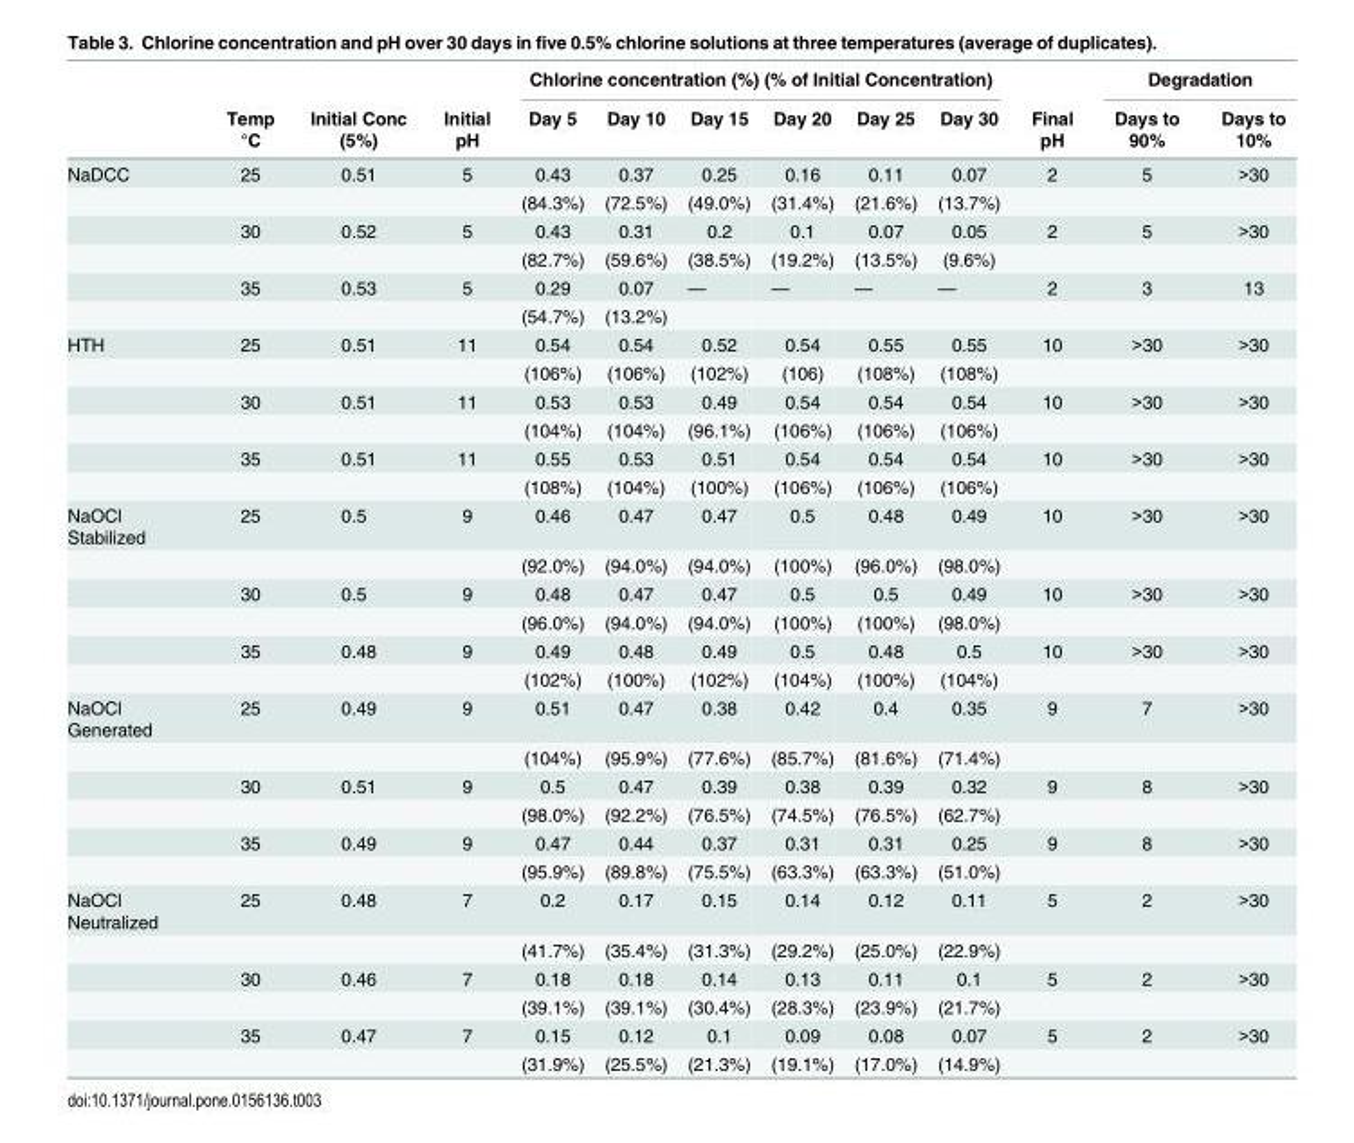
<table><thead><tr><td rowspan="2"></td><td rowspan="2">Temp °C</td><td rowspan="2">Initial Conc (5%)</td><td rowspan="2">Initial pH</td><td colspan="6">Chlorine concentration (%) (% of Initial Concentration)</td><td rowspan="2">Final pH</td><td colspan="2">Degradation</td></tr><tr><td>Day 5</td><td>Day 10</td><td>Day 15</td><td>Day 20</td><td>Day 25</td><td>Day 30</td><td>Days to 90%</td><td>Days to 10%</td></tr></thead><tbody><tr><td rowspan="6">NaDCC</td><td>25</td><td>0.51</td><td>5</td><td>0.43</td><td>0.37</td><td>0.25</td><td>0.16</td><td>0.11</td><td>0.07</td><td>2</td><td>5</td><td>&gt;30</td></tr><tr><td></td><td></td><td></td><td>(84.3%)</td><td>(72.5%)</td><td>(49.0%)</td><td>(31.4%)</td><td>(21.6%)</td><td>(13.7%)</td><td></td><td></td><td></td></tr><tr><td>30</td><td>0.52</td><td>5</td><td>0.43</td><td>0.31</td><td>0.2</td><td>0.1</td><td>0.07</td><td>0.05</td><td>2</td><td>5</td><td>&gt;30</td></tr><tr><td></td><td></td><td></td><td>(82.7%)</td><td>(59.6%)</td><td>(38.5%)</td><td>(19.2%)</td><td>(13.5%)</td><td>(9.6%)</td><td></td><td></td><td></td></tr><tr><td>35</td><td>0.53</td><td>5</td><td>0.29</td><td>0.07</td><td>—</td><td>—</td><td>—</td><td>—</td><td>2</td><td>3</td><td>13</td></tr><tr><td></td><td></td><td></td><td>(54.7%)</td><td>(13.2%)</td><td></td><td></td><td></td><td></td><td></td><td></td><td></td></tr><tr><td rowspan="6">HTH</td><td>25</td><td>0.51</td><td>11</td><td>0.54</td><td>0.54</td><td>0.52</td><td>0.54</td><td>0.55</td><td>0.55</td><td>10</td><td>&gt;30</td><td>&gt;30</td></tr><tr><td></td><td></td><td></td><td>(106%)</td><td>(106%)</td><td>(102%)</td><td>(106)</td><td>(108%)</td><td>(108%)</td><td></td><td></td><td></td></tr><tr><td>30</td><td>0.51</td><td>11</td><td>0.53</td><td>0.53</td><td>0.49</td><td>0.54</td><td>0.54</td><td>0.54</td><td>10</td><td>&gt;30</td><td>&gt;30</td></tr><tr><td></td><td></td><td></td><td>(104%)</td><td>(104%)</td><td>(96.1%)</td><td>(106%)</td><td>(106%)</td><td>(106%)</td><td></td><td></td><td></td></tr><tr><td>35</td><td>0.51</td><td>11</td><td>0.55</td><td>0.53</td><td>0.51</td><td>0.54</td><td>0.54</td><td>0.54</td><td>10</td><td>&gt;30</td><td>&gt;30</td></tr><tr><td></td><td></td><td></td><td>(108%)</td><td>(104%)</td><td>(100%)</td><td>(106%)</td><td>(106%)</td><td>(106%)</td><td></td><td></td><td></td></tr><tr><td rowspan="6">NaOCl Stabilized</td><td>25</td><td>0.5</td><td>9</td><td>0.46</td><td>0.47</td><td>0.47</td><td>0.5</td><td>0.48</td><td>0.49</td><td>10</td><td>&gt;30</td><td>&gt;30</td></tr><tr><td></td><td></td><td></td><td>(92.0%)</td><td>(94.0%)</td><td>(94.0%)</td><td>(100%)</td><td>(96.0%)</td><td>(98.0%)</td><td></td><td></td><td></td></tr><tr><td>30</td><td>0.5</td><td>9</td><td>0.48</td><td>0.47</td><td>0.47</td><td>0.5</td><td>0.5</td><td>0.49</td><td>10</td><td>&gt;30</td><td>&gt;30</td></tr><tr><td></td><td></td><td></td><td>(96.0%)</td><td>(94.0%)</td><td>(94.0%)</td><td>(100%)</td><td>(100%)</td><td>(98.0%)</td><td></td><td></td><td></td></tr><tr><td>35</td><td>0.48</td><td>9</td><td>0.49</td><td>0.48</td><td>0.49</td><td>0.5</td><td>0.48</td><td>0.5</td><td>10</td><td>&gt;30</td><td>&gt;30</td></tr><tr><td></td><td></td><td></td><td>(102%)</td><td>(100%)</td><td>(102%)</td><td>(104%)</td><td>(100%)</td><td>(104%)</td><td></td><td></td><td></td></tr><tr><td rowspan="6">NaOCl Generated</td><td>25</td><td>0.49</td><td>9</td><td>0.51</td><td>0.47</td><td>0.38</td><td>0.42</td><td>0.4</td><td>0.35</td><td>9</td><td>7</td><td>&gt;30</td></tr><tr><td></td><td></td><td></td><td>(104%)</td><td>(95.9%)</td><td>(77.6%)</td><td>(85.7%)</td><td>(81.6%)</td><td>(71.4%)</td><td></td><td></td><td></td></tr><tr><td>30</td><td>0.51</td><td>9</td><td>0.5</td><td>0.47</td><td>0.39</td><td>0.38</td><td>0.39</td><td>0.32</td><td>9</td><td>8</td><td>&gt;30</td></tr><tr><td></td><td></td><td></td><td>(98.0%)</td><td>(92.2%)</td><td>(76.5%)</td><td>(74.5%)</td><td>(76.5%)</td><td>(62.7%)</td><td></td><td></td><td></td></tr><tr><td>35</td><td>0.49</td><td>9</td><td>0.47</td><td>0.44</td><td>0.37</td><td>0.31</td><td>0.31</td><td>0.25</td><td>9</td><td>8</td><td>&gt;30</td></tr><tr><td></td><td></td><td></td><td>(95.9%)</td><td>(89.8%)</td><td>(75.5%)</td><td>(63.3%)</td><td>(63.3%)</td><td>(51.0%)</td><td></td><td></td><td></td></tr><tr><td rowspan="6">NaOCl Neutralized</td><td>25</td><td>0.48</td><td>7</td><td>0.2</td><td>0.17</td><td>0.15</td><td>0.14</td><td>0.12</td><td>0.11</td><td>5</td><td>2</td><td>&gt;30</td></tr><tr><td></td><td></td><td></td><td>(41.7%)</td><td>(35.4%)</td><td>(31.3%)</td><td>(29.2%)</td><td>(25.0%)</td><td>(22.9%)</td><td></td><td></td><td></td></tr><tr><td>30</td><td>0.46</td><td>7</td><td>0.18</td><td>0.18</td><td>0.14</td><td>0.13</td><td>0.11</td><td>0.1</td><td>5</td><td>2</td><td>&gt;30</td></tr><tr><td></td><td></td><td></td><td>(39.1%)</td><td>(39.1%)</td><td>(30.4%)</td><td>(28.3%)</td><td>(23.9%)</td><td>(21.7%)</td><td></td><td></td><td></td></tr><tr><td>35</td><td>0.47</td><td>7</td><td>0.15</td><td>0.12</td><td>0.1</td><td>0.09</td><td>0.08</td><td>0.07</td><td>5</td><td>2</td><td>&gt;30</td></tr><tr><td></td><td></td><td></td><td>(31.9%)</td><td>(25.5%)</td><td>(21.3%)</td><td>(19.1%)</td><td>(17.0%)</td><td>(14.9%)</td><td></td><td></td><td></td></tr></tbody></table>